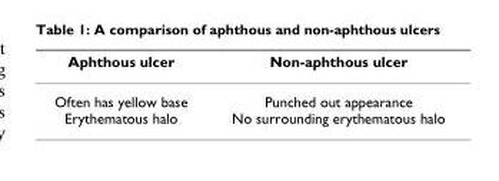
<table><thead><tr><td>Aphthous ulcer</td><td>Non-aphthous ulcer</td></tr></thead><tbody><tr><td>Often has yellow base Erythematous halo</td><td>Punched out appearance No surrounding erythematous halo</td></tr></tbody></table>